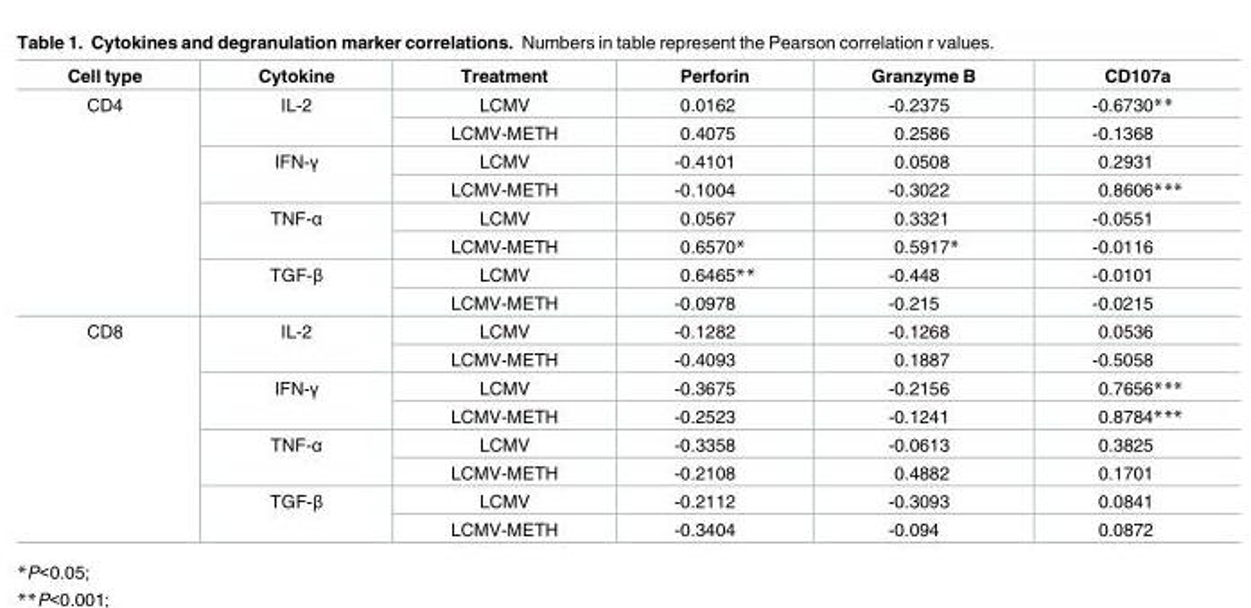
<table><thead><tr><td>Cell type</td><td>Cytokine</td><td>Treatment</td><td>Perforin</td><td>Granzyme B</td><td>CD107a</td></tr></thead><tbody><tr><td rowspan="8">CD4</td><td rowspan="2">IL-2</td><td>LCMV</td><td>0.0162</td><td>-0.2375</td><td>-0.6730**</td></tr><tr><td>LCMV-METH</td><td>0.4075</td><td>0.2586</td><td>-0.1368</td></tr><tr><td rowspan="2">IFN-γ</td><td>LCMV</td><td>-0.4101</td><td>0.0508</td><td>0.2931</td></tr><tr><td>LCMV-METH</td><td>-0.1004</td><td>-0.3022</td><td>0.8606***</td></tr><tr><td rowspan="2">TNF-α</td><td>LCMV</td><td>0.0567</td><td>0.3321</td><td>-0.0551</td></tr><tr><td>LCMV-METH</td><td>0.6570*</td><td>0.5917*</td><td>-0.0116</td></tr><tr><td rowspan="2">TGF-β</td><td>LCMV</td><td>0.6465**</td><td>-0.448</td><td>-0.0101</td></tr><tr><td>LCMV-METH</td><td>-0.0978</td><td>-0.215</td><td>-0.0215</td></tr><tr><td rowspan="8">CD8</td><td rowspan="2">IL-2</td><td>LCMV</td><td>-0.1282</td><td>-0.1268</td><td>0.0536</td></tr><tr><td>LCMV-METH</td><td>-0.4093</td><td>0.1887</td><td>-0.5058</td></tr><tr><td rowspan="2">IFN-γ</td><td>LCMV</td><td>-0.3675</td><td>-0.2156</td><td>0.7656***</td></tr><tr><td>LCMV-METH</td><td>-0.2523</td><td>-0.1241</td><td>0.8784***</td></tr><tr><td rowspan="2">TNF-α</td><td>LCMV</td><td>-0.3358</td><td>-0.0613</td><td>0.3825</td></tr><tr><td>LCMV-METH</td><td>-0.2108</td><td>0.4882</td><td>0.1701</td></tr><tr><td rowspan="2">TGF-β</td><td>LCMV</td><td>-0.2112</td><td>-0.3093</td><td>0.0841</td></tr><tr><td>LCMV-METH</td><td>-0.3404</td><td>-0.094</td><td>0.0872</td></tr></tbody></table>